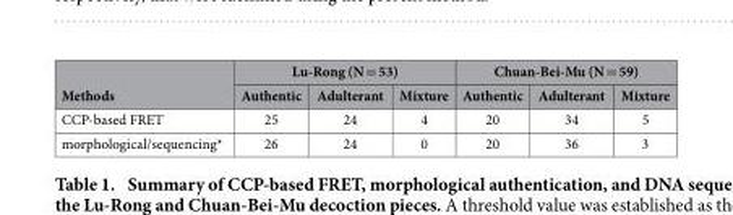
<table><thead><tr><td rowspan="2">Methods</td><td colspan="3">Lu-Rong (N = 53)</td><td colspan="3">Chuan-Bei-Mu (N = 59)</td></tr><tr><td>Authentic</td><td>Adulterant</td><td>Mixture</td><td>Authentic</td><td>Adulterant</td><td>Mixture</td></tr></thead><tbody><tr><td>CCP-based FRET</td><td>25</td><td>24</td><td>4</td><td>20</td><td>34</td><td>5</td></tr><tr><td>morphological/sequencing*</td><td>26</td><td>24</td><td>0</td><td>20</td><td>36</td><td>3</td></tr></tbody></table>